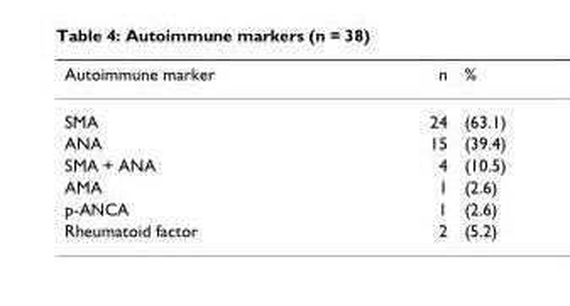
<table><thead><tr><td>Autoimmune marker</td><td>n</td><td>%</td></tr></thead><tbody><tr><td>SMA</td><td>24</td><td>(63.1)</td></tr><tr><td>ANA</td><td>15</td><td>(39.4)</td></tr><tr><td>SMA + ANA</td><td>4</td><td>(10.5)</td></tr><tr><td>AMA</td><td>1</td><td>(2.6)</td></tr><tr><td>p-ANCA</td><td>1</td><td>(2.6)</td></tr><tr><td>Rheumatoid factor</td><td>2</td><td>(5.2)</td></tr></tbody></table>